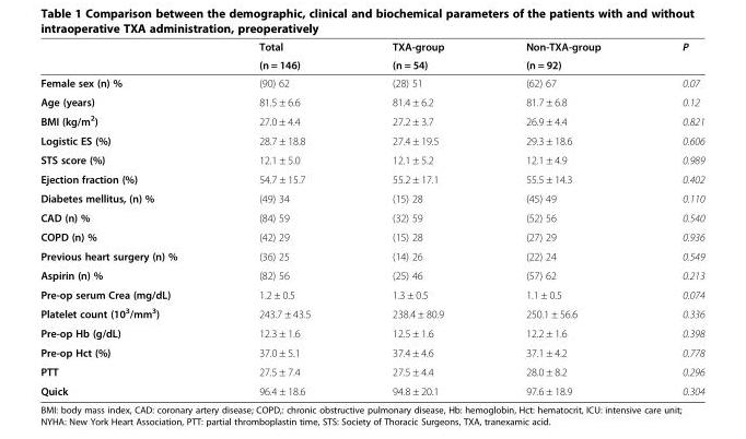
<table><thead><tr><td rowspan="2"></td><td rowspan="2">Total (n = 146)</td><td rowspan="2">TXA-group (n = 54)</td><td rowspan="2">Non-TXA-group (n = 92)</td><td rowspan="2">P</td></tr><tr></tr></thead><tbody><tr><td>Female sex (n) %</td><td>(90) 62</td><td>(28) 51</td><td>(62) 67</td><td>0.07</td></tr><tr><td>Age (years)</td><td>81.5 ± 6.6</td><td>81.4 ± 6.2</td><td>81.7 ± 6.8</td><td>0.12</td></tr><tr><td>BMI (kg/m<sup>2</sup>)</td><td>27.0 ± 4.4</td><td>27.2 ± 3.7</td><td>26.9 ± 4.4</td><td>0.821</td></tr><tr><td>Logistic ES (%)</td><td>28.7 ± 18.8</td><td>27.4 ± 19.5</td><td>29.3 ± 18.6</td><td>0.606</td></tr><tr><td>STS score (%)</td><td>12.1 ± 5.0</td><td>12.1 ± 5.2</td><td>12.1 ± 4.9</td><td>0.989</td></tr><tr><td>Ejection fraction (%)</td><td>54.7 ± 15.7</td><td>55.2 ± 17.1</td><td>55.5 ± 14.3</td><td>0.402</td></tr><tr><td>Diabetes mellitus, (n) %</td><td>(49) 34</td><td>(15) 28</td><td>(45) 49</td><td>0.110</td></tr><tr><td>CAD (n) %</td><td>(84) 59</td><td>(32) 59</td><td>(52) 56</td><td>0.540</td></tr><tr><td>COPD (n) %</td><td>(42) 29</td><td>(15) 28</td><td>(27) 29</td><td>0.936</td></tr><tr><td>Previous heart surgery (n) %</td><td>(36) 25</td><td>(14) 26</td><td>(22) 24</td><td>0.549</td></tr><tr><td>Aspirin (n) %</td><td>(82) 56</td><td>(25) 46</td><td>(57) 62</td><td>0.213</td></tr><tr><td>Pre-op serum Crea (mg/dL)</td><td>1.2 ± 0.5</td><td>1.3 ± 0.5</td><td>1.1 ± 0.5</td><td>0.074</td></tr><tr><td>Platelet count (10<sup>3</sup>/mm<sup>3</sup>)</td><td>243.7 ± 43.5</td><td>238.4 ± 80.9</td><td>250.1 ± 56.6</td><td>0.336</td></tr><tr><td>Pre-op Hb (g/dL)</td><td>12.3 ± 1.6</td><td>12.5 ± 1.6</td><td>12.2 ± 1.6</td><td>0.398</td></tr><tr><td>Pre-op Hct (%)</td><td>37.0 ± 5.1</td><td>37.4 ± 4.6</td><td>37.1 ± 4.2</td><td>0.778</td></tr><tr><td>PTT</td><td>27.5 ± 7.4</td><td>27.5 ± 4.4</td><td>28.0 ± 8.2</td><td>0.296</td></tr><tr><td>Quick</td><td>96.4 ± 18.6</td><td>94.8 ± 20.1</td><td>97.6 ± 18.9</td><td>0.304</td></tr></tbody></table>